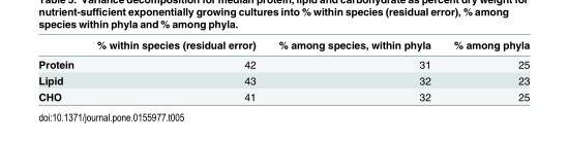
<table><thead><tr><td></td><td>% within species (residual error)</td><td>% among species, within phyla</td><td>% among phyla</td></tr></thead><tbody><tr><td>Protein</td><td>42</td><td>31</td><td>25</td></tr><tr><td>Lipid</td><td>43</td><td>32</td><td>23</td></tr><tr><td>CHO</td><td>41</td><td>32</td><td>25</td></tr></tbody></table>